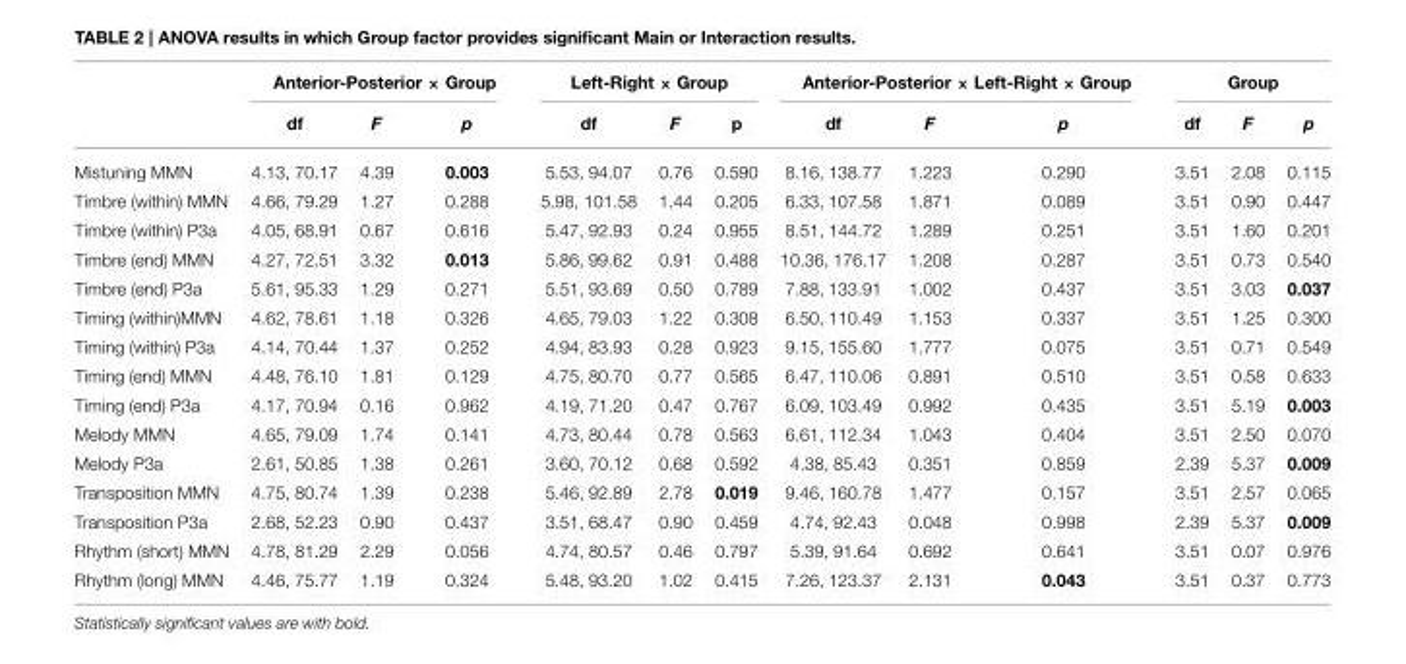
<table><thead><tr><td rowspan="2"></td><td colspan="3">Anterior-Posterior × Group</td><td colspan="3">Left-Right × Group</td><td colspan="3">Anterior-Posterior × Left-Right × Group</td><td colspan="3">Group</td></tr><tr><td>df</td><td>F</td><td>p</td><td>df</td><td>F</td><td>p</td><td>df</td><td>F</td><td>p</td><td>df</td><td>F</td><td>p</td></tr></thead><tbody><tr><td>Mistuning MMN</td><td>4.13, 70.17</td><td>4.39</td><td>0.003</td><td>5.53, 94.07</td><td>0.76</td><td>0.590</td><td>8.16, 138.77</td><td>1.223</td><td>0.290</td><td>3.51</td><td>2.08</td><td>0.115</td></tr><tr><td>Timbre (within) MMN</td><td>4.66, 79.29</td><td>1.27</td><td>0.288</td><td>5.98, 101.58</td><td>1.44</td><td>0.205</td><td>6.33, 107.58</td><td>1.871</td><td>0.089</td><td>3.51</td><td>0.90</td><td>0.447</td></tr><tr><td>Timbre (within) P3a</td><td>4.05, 68.91</td><td>0.67</td><td>0.616</td><td>5.47, 92.93</td><td>0.24</td><td>0.955</td><td>8.51, 144.72</td><td>1.289</td><td>0.251</td><td>3.51</td><td>1.60</td><td>0.201</td></tr><tr><td>Timbre (end) MMN</td><td>4.27, 72.51</td><td>3.32</td><td>0.013</td><td>5.86, 99.62</td><td>0.91</td><td>0.488</td><td>10.36, 176.17</td><td>1.208</td><td>0.287</td><td>3.51</td><td>0.73</td><td>0.540</td></tr><tr><td>Timbre (end) P3a</td><td>5.61, 95.33</td><td>1.29</td><td>0.271</td><td>5.51, 93.69</td><td>0.50</td><td>0.789</td><td>7.88, 133.91</td><td>1.002</td><td>0.437</td><td>3.51</td><td>3.03</td><td>0.037</td></tr><tr><td>Timing (within)MMN</td><td>4.62, 78.61</td><td>1.18</td><td>0.326</td><td>4.65, 79.03</td><td>1.22</td><td>0.308</td><td>6.50, 110.49</td><td>1.153</td><td>0.337</td><td>3.51</td><td>1.25</td><td>0.300</td></tr><tr><td>Timing (within) P3a</td><td>4.14, 70.44</td><td>1.37</td><td>0.252</td><td>4.94, 83.93</td><td>0.28</td><td>0.923</td><td>9.15, 155.60</td><td>1.777</td><td>0.075</td><td>3.51</td><td>0.71</td><td>0.549</td></tr><tr><td>Timing (end) MMN</td><td>4.48, 76.10</td><td>1.81</td><td>0.129</td><td>4.75, 80.70</td><td>0.77</td><td>0.565</td><td>6.47, 110.06</td><td>0.891</td><td>0.510</td><td>3.51</td><td>0.58</td><td>0.633</td></tr><tr><td>Timing (end) P3a</td><td>4.17, 70.94</td><td>0.16</td><td>0.962</td><td>4.19, 71.20</td><td>0.47</td><td>0.767</td><td>6.09, 103.49</td><td>0.992</td><td>0.435</td><td>3.51</td><td>5.19</td><td>0.003</td></tr><tr><td>Melody MMN</td><td>4.65, 79.09</td><td>1.74</td><td>0.141</td><td>4.73, 80.44</td><td>0.78</td><td>0.563</td><td>6.61, 112.34</td><td>1.043</td><td>0.404</td><td>3.51</td><td>2.50</td><td>0.070</td></tr><tr><td>Melody P3a</td><td>2.61, 50.85</td><td>1.38</td><td>0.261</td><td>3.60, 70.12</td><td>0.68</td><td>0.592</td><td>4.38, 85.43</td><td>0.351</td><td>0.859</td><td>2.39</td><td>5.37</td><td>0.009</td></tr><tr><td>Transposition MMN</td><td>4.75, 80.74</td><td>1.39</td><td>0.238</td><td>5.46, 92.89</td><td>2.78</td><td>0.019</td><td>9.46, 160.78</td><td>1.477</td><td>0.157</td><td>3.51</td><td>2.57</td><td>0.065</td></tr><tr><td>Transposition P3a</td><td>2.68, 52.23</td><td>0.90</td><td>0.437</td><td>3.51, 68.47</td><td>0.90</td><td>0.459</td><td>4.74, 92.43</td><td>0.048</td><td>0.998</td><td>2.39</td><td>5.37</td><td>0.009</td></tr><tr><td>Rhythm (short) MMN</td><td>4.78, 81.29</td><td>2.29</td><td>0.056</td><td>4.74, 80.57</td><td>0.46</td><td>0.797</td><td>5.39, 91.64</td><td>0.692</td><td>0.641</td><td>3.51</td><td>0.07</td><td>0.976</td></tr><tr><td>Rhythm (long) MMN</td><td>4.46, 75.77</td><td>1.19</td><td>0.324</td><td>5.48, 93.20</td><td>1.02</td><td>0.415</td><td>7.26, 123.37</td><td>2.131</td><td>0.043</td><td>3.51</td><td>0.37</td><td>0.773</td></tr></tbody></table>